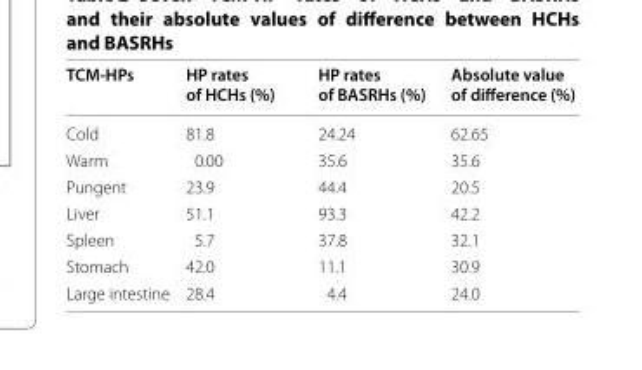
<table><thead><tr><td>TCM‑HPs</td><td>HP rates of HCHs (%)</td><td>HP rates of BASRHs (%)</td><td>Absolute value of difference (%)</td></tr></thead><tbody><tr><td>Cold</td><td>81.8</td><td>24.24</td><td>62.65</td></tr><tr><td>Warm</td><td>0.00</td><td>35.6</td><td>35.6</td></tr><tr><td>Pungent</td><td>23.9</td><td>44.4</td><td>20.5</td></tr><tr><td>Liver</td><td>51.1</td><td>93.3</td><td>42.2</td></tr><tr><td>Spleen</td><td>5.7</td><td>37.8</td><td>32.1</td></tr><tr><td>Stomach</td><td>42.0</td><td>11.1</td><td>30.9</td></tr><tr><td>Large intestine</td><td>28.4</td><td>4.4</td><td>24.0</td></tr></tbody></table>